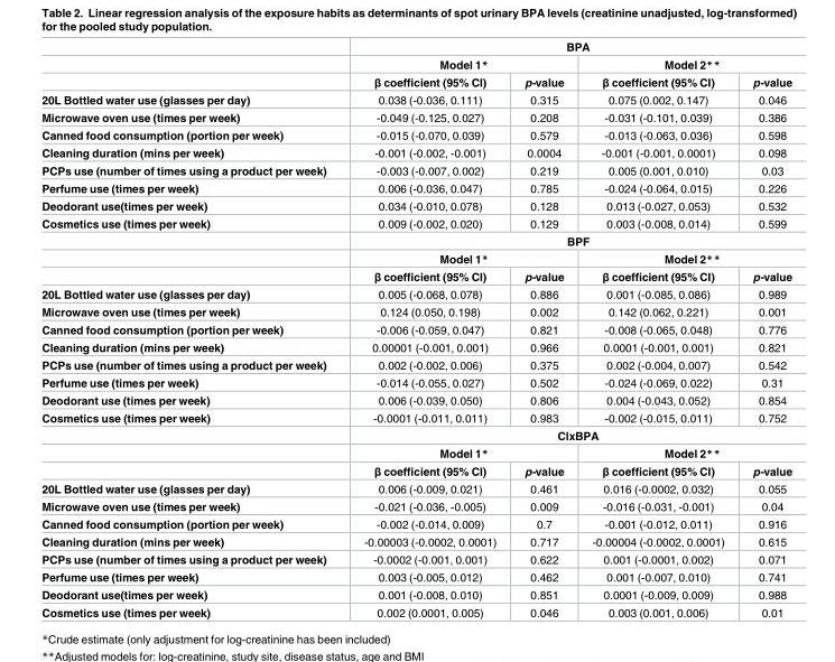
<table><thead><tr><td rowspan="3"></td><td colspan="4">BPA</td></tr><tr><td colspan="2">Model 1*</td><td colspan="2">Model 2**</td></tr><tr><td>β coefficient (95% CI)</td><td>p-value</td><td>β coefficient (95% CI)</td><td>p-value</td></tr></thead><tbody><tr><td>20L Bottled water use (glasses per day)</td><td>0.038 (-0.036, 0.111)</td><td>0.315</td><td>0.075 (0.002, 0.147)</td><td>0.046</td></tr><tr><td>Microwave oven use (times per week)</td><td>-0.049 (-0.125, 0.027)</td><td>0.208</td><td>-0.031 (-0.101, 0.039)</td><td>0.386</td></tr><tr><td>Canned food consumption (portion per week)</td><td>-0.015 (-0.070, 0.039)</td><td>0.579</td><td>-0.013 (-0.063, 0.036)</td><td>0.598</td></tr><tr><td>Cleaning duration (mins per week)</td><td>-0.001 (-0.002, -0.001)</td><td>0.0004</td><td>-0.001 (-0.001, 0.0001)</td><td>0.098</td></tr><tr><td>PCPs use (number of times using a product per week)</td><td>-0.003 (-0.007, 0.002)</td><td>0.219</td><td>0.005 (0.001, 0.010)</td><td>0.03</td></tr><tr><td>Perfume use (times per week)</td><td>0.006 (-0.036, 0.047)</td><td>0.785</td><td>-0.024 (-0.064, 0.015)</td><td>0.226</td></tr><tr><td>Deodorant use(times per week)</td><td>0.034 (-0.010, 0.078)</td><td>0.128</td><td>0.013 (-0.027, 0.053)</td><td>0.532</td></tr><tr><td rowspan="4">Cosmetics use (times per week)</td><td>0.009 (-0.002, 0.020)</td><td>0.129</td><td>0.003 (-0.008, 0.014)</td><td>0.599</td></tr><tr><td colspan="4">BPF</td></tr><tr><td colspan="2">Model 1*</td><td colspan="2">Model 2**</td></tr><tr><td>β coefficient (95% CI)</td><td>p-value</td><td>β coefficient (95% CI)</td><td>p-value</td></tr><tr><td>20L Bottled water use (glasses per day)</td><td>0.005 (-0.068, 0.078)</td><td>0.886</td><td>0.001 (-0.085, 0.086)</td><td>0.989</td></tr><tr><td>Microwave oven use (times per week)</td><td>0.124 (0.050, 0.198)</td><td>0.002</td><td>0.142 (0.062, 0.221)</td><td>0.001</td></tr><tr><td>Canned food consumption (portion per week)</td><td>-0.006 (-0.059, 0.047)</td><td>0.821</td><td>-0.008 (-0.065, 0.048)</td><td>0.776</td></tr><tr><td>Cleaning duration (mins per week)</td><td>0.00001 (-0.001, 0.001)</td><td>0.966</td><td>0.0001 (-0.001, 0.001)</td><td>0.821</td></tr><tr><td>PCPs use (number of times using a product per week)</td><td>0.002 (-0.002, 0.006)</td><td>0.375</td><td>0.002 (-0.004, 0.007)</td><td>0.542</td></tr><tr><td>Perfume use (times per week)</td><td>-0.014 (-0.055, 0.027)</td><td>0.502</td><td>-0.024 (-0.069, 0.022)</td><td>0.31</td></tr><tr><td>Deodorant use (times per week)</td><td>0.006 (-0.039, 0.050)</td><td>0.806</td><td>0.004 (-0.043, 0.052)</td><td>0.854</td></tr><tr><td rowspan="4">Cosmetics use (times per week)</td><td>-0.0001 (-0.011, 0.011)</td><td>0.983</td><td>-0.002 (-0.015, 0.011)</td><td>0.752</td></tr><tr><td colspan="4">ClxBPA</td></tr><tr><td colspan="2">Model 1*</td><td colspan="2">Model 2**</td></tr><tr><td>β coefficient (95% CI)</td><td>p-value</td><td>β coefficient (95% CI)</td><td>p-value</td></tr><tr><td>20L Bottled water use (glasses per day)</td><td>0.006 (-0.009, 0.021)</td><td>0.461</td><td>0.016 (-0.0002, 0.032)</td><td>0.055</td></tr><tr><td>Microwave oven use (times per week)</td><td>-0.021 (-0.036, -0.005)</td><td>0.009</td><td>-0.016 (-0.031, -0.001)</td><td>0.04</td></tr><tr><td>Canned food consumption (portion per week)</td><td>-0.002 (-0.014, 0.009)</td><td>0.7</td><td>-0.001 (-0.012, 0.011)</td><td>0.916</td></tr><tr><td>Cleaning duration (mins per week)</td><td>-0.00003 (-0.0002, 0.0001)</td><td>0.717</td><td>-0.00004 (-0.0002, 0.0001)</td><td>0.615</td></tr><tr><td>PCPs use (number of times using a product per week)</td><td>-0.0002 (-0.001, 0.001)</td><td>0.622</td><td>0.001 (-0.0001, 0.002)</td><td>0.071</td></tr><tr><td>Perfume use (times per week)</td><td>0.003 (-0.005, 0.012)</td><td>0.462</td><td>0.001 (-0.007, 0.010)</td><td>0.741</td></tr><tr><td>Deodorant use(times per week)</td><td>0.001 (-0.008, 0.010)</td><td>0.851</td><td>0.0001 (-0.009, 0.009)</td><td>0.988</td></tr><tr><td>Cosmetics use (times per week)</td><td>0.002 (0.0001, 0.005)</td><td>0.046</td><td>0.003 (0.001, 0.006)</td><td>0.01</td></tr></tbody></table>